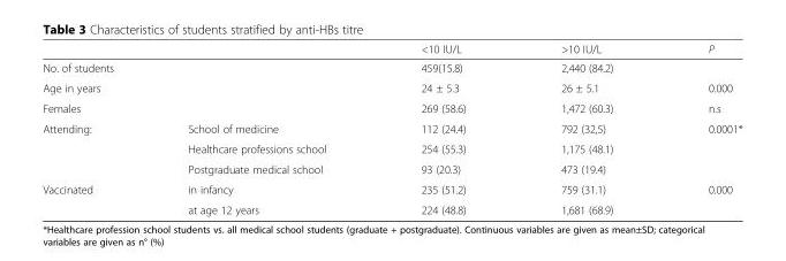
<table><thead><tr><td></td><td></td><td>&lt;10 IU/L</td><td>&gt;10 IU/L</td><td>P</td></tr></thead><tbody><tr><td colspan="2">No. of students</td><td>459(15.8)</td><td>2,440 (84.2)</td><td></td></tr><tr><td colspan="2">Age in years</td><td>24 ± 5.3</td><td>26 ± 5.1</td><td>0.000</td></tr><tr><td colspan="2">Females</td><td>269 (58.6)</td><td>1,472 (60.3)</td><td>n.s</td></tr><tr><td rowspan="3">Attending:</td><td>School of medicine</td><td>112 (24.4)</td><td>792 (32,5)</td><td rowspan="3">0.0001*</td></tr><tr><td>Healthcare professions school</td><td>254 (55.3)</td><td>1,175 (48.1)</td></tr><tr><td>Postgraduate medical school</td><td>93 (20.3)</td><td>473 (19.4)</td></tr><tr><td rowspan="2">Vaccinated</td><td>in infancy</td><td>235 (51.2)</td><td>759 (31.1)</td><td rowspan="2">0.000</td></tr><tr><td>at age 12 years</td><td>224 (48.8)</td><td>1,681 (68.9)</td></tr></tbody></table>